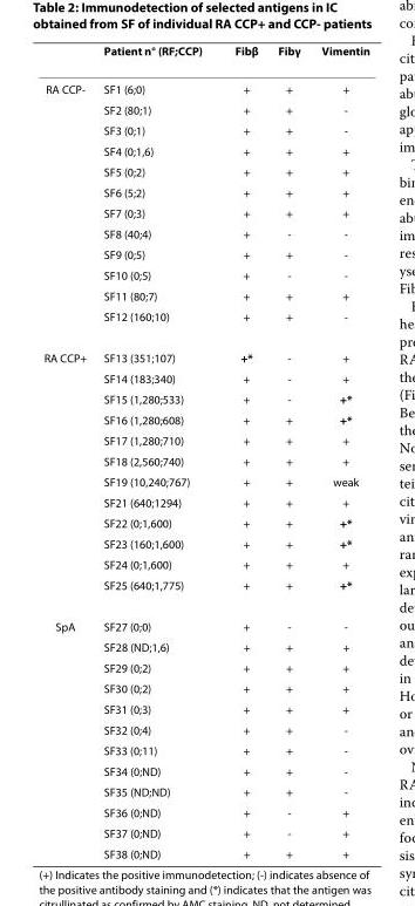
<table><thead><tr><td></td><td>Patient n° (RF;CCP)</td><td>Fibβ</td><td>Fibγ</td><td>Vimentin</td></tr></thead><tbody><tr><td rowspan="12">RA CCP-</td><td>SF1 (6;0)</td><td>+</td><td>+</td><td>+</td></tr><tr><td>SF2 (80;1)</td><td>+</td><td>+</td><td>-</td></tr><tr><td>SF3 (0;1)</td><td>+</td><td>+</td><td>-</td></tr><tr><td>SF4 (0;1,6)</td><td>+</td><td>+</td><td>+</td></tr><tr><td>SF5 (0;2)</td><td>+</td><td>+</td><td>+</td></tr><tr><td>SF6 (5;2)</td><td>+</td><td>+</td><td>+</td></tr><tr><td>SF7 (0;3)</td><td>+</td><td>+</td><td>+</td></tr><tr><td>SF8 (40;4)</td><td>+</td><td>-</td><td>-</td></tr><tr><td>SF9 (0;5)</td><td>+</td><td>+</td><td>-</td></tr><tr><td>SF10 (0;5)</td><td>+</td><td>-</td><td>-</td></tr><tr><td>SF11 (80;7)</td><td>+</td><td>+</td><td>+</td></tr><tr><td>SF12 (160;10)</td><td>+</td><td>+</td><td>-</td></tr><tr><td rowspan="12">RA CCP+</td><td>SF13 (351;107)</td><td>+*</td><td>-</td><td>+</td></tr><tr><td>SF14 (183;340)</td><td>+</td><td>-</td><td>+</td></tr><tr><td>SF15 (1,280;533)</td><td>+</td><td>-</td><td>+*</td></tr><tr><td>SF16 (1,280;608)</td><td>+</td><td>+</td><td>+*</td></tr><tr><td>SF17 (1,280;710)</td><td>+</td><td>+</td><td>+</td></tr><tr><td>SF18 (2,560;740)</td><td>+</td><td>+</td><td>+</td></tr><tr><td>SF19 (10,240;767)</td><td>+</td><td>+</td><td>weak</td></tr><tr><td>SF21 (640;1294)</td><td>+</td><td>+</td><td>+</td></tr><tr><td>SF22 (0;1,600)</td><td>+</td><td>+</td><td>+*</td></tr><tr><td>SF23 (160;1,600)</td><td>+</td><td>+</td><td>+*</td></tr><tr><td>SF24 (0;1,600)</td><td>+</td><td>+</td><td>+</td></tr><tr><td>SF25 (640;1,775)</td><td>+</td><td>+</td><td>+*</td></tr><tr><td rowspan="12">SpA</td><td>SF27 (0;0)</td><td>+</td><td>-</td><td>-</td></tr><tr><td>SF28 (ND;1,6)</td><td>+</td><td>+</td><td>+</td></tr><tr><td>SF29 (0;2)</td><td>+</td><td>+</td><td>+</td></tr><tr><td>SF30 (0;2)</td><td>+</td><td>+</td><td>+</td></tr><tr><td>SF31 (0;3)</td><td>+</td><td>+</td><td>+</td></tr><tr><td>SF32 (0;4)</td><td>+</td><td>+</td><td>-</td></tr><tr><td>SF33 (0;11)</td><td>+</td><td>+</td><td>-</td></tr><tr><td>SF34 (0;ND)</td><td>+</td><td>+</td><td>-</td></tr><tr><td>SF35 (ND;ND)</td><td>+</td><td>+</td><td>-</td></tr><tr><td>SF36 (0;ND)</td><td>+</td><td>-</td><td>+</td></tr><tr><td>SF37 (0;ND)</td><td>+</td><td>-</td><td>+</td></tr><tr><td>SF38 (0;ND)</td><td>+</td><td>+</td><td>+</td></tr></tbody></table>